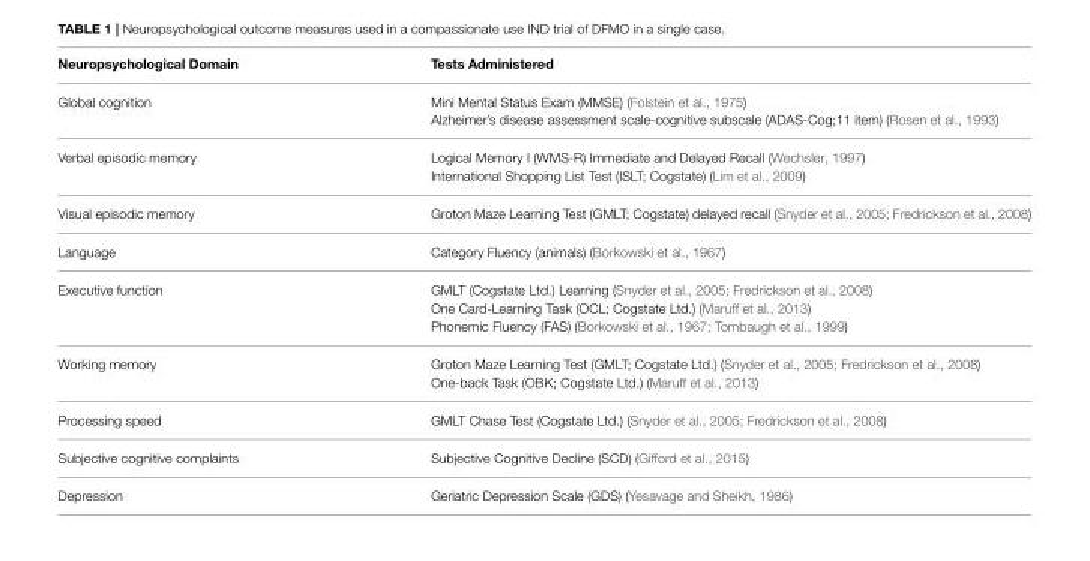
<table><thead><tr><td>Neuropsychological Domain</td><td>Tests Administered</td></tr></thead><tbody><tr><td>Global cognition</td><td>Mini Mental Status Exam (MMSE) (Folstein et al., 1975) Alzheimer’s disease assessment scale-cognitive subscale (ADAS-Cog;11 item) (Rosen et al., 1993)</td></tr><tr><td>Verbal episodic memory</td><td>Logical Memory I (WMS-R) Immediate and Delayed Recall (Wechsler, 1997) International Shopping List Test (ISLT; Cogstate) (Lim et al., 2009)</td></tr><tr><td>Visual episodic memory</td><td>Groton Maze Learning Test (GMLT; Cogstate) delayed recall (Snyder et al., 2005; Fredrickson et al., 2008)</td></tr><tr><td>Language</td><td>Category Fluency (animals) (Borkowski et al., 1967)</td></tr><tr><td>Executive function</td><td>GMLT (Cogstate Ltd.) Learning (Snyder et al., 2005; Fredrickson et al., 2008) One Card-Learning Task (OCL; Cogstate Ltd.) (Maruff et al., 2013) Phonemic Fluency (FAS) (Borkowski et al., 1967; Tombaugh et al., 1999)</td></tr><tr><td>Working memory</td><td>Groton Maze Learning Test (GMLT; Cogstate Ltd.) (Snyder et al., 2005; Fredrickson et al., 2008) One-back Task (OBK; Cogstate Ltd.) (Maruff et al., 2013)</td></tr><tr><td>Processing speed</td><td>GMLT Chase Test (Cogstate Ltd.) (Snyder et al., 2005; Fredrickson et al., 2008)</td></tr><tr><td>Subjective cognitive complaints</td><td>Subjective Cognitive Decline (SCD) (Gifford et al., 2015)</td></tr><tr><td>Depression</td><td>Geriatric Depression Scale (GDS) (Yesavage and Sheikh, 1986)</td></tr></tbody></table>